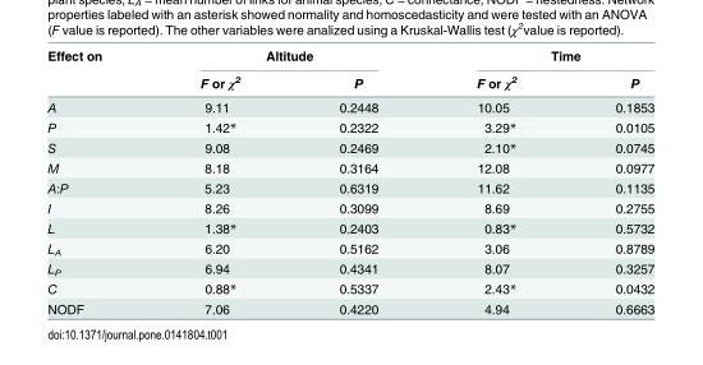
<table><thead><tr><td rowspan="2">Effect on</td><td colspan="2">Altitude</td><td colspan="2">Time</td></tr><tr><td>F or χ<sup>2</sup></td><td>P</td><td>F or χ<sup>2</sup></td><td>P</td></tr></thead><tbody><tr><td>A</td><td>9.11</td><td>0.2448</td><td>10.05</td><td>0.1853</td></tr><tr><td>P</td><td>1.42*</td><td>0.2322</td><td>3.29*</td><td>0.0105</td></tr><tr><td>S</td><td>9.08</td><td>0.2469</td><td>2.10*</td><td>0.0745</td></tr><tr><td>M</td><td>8.18</td><td>0.3164</td><td>12.08</td><td>0.0977</td></tr><tr><td>A:P</td><td>5.23</td><td>0.6319</td><td>11.62</td><td>0.1135</td></tr><tr><td>I</td><td>8.26</td><td>0.3099</td><td>8.69</td><td>0.2755</td></tr><tr><td>L</td><td>1.38*</td><td>0.2403</td><td>0.83*</td><td>0.5732</td></tr><tr><td>L<sub>A</sub></td><td>6.20</td><td>0.5162</td><td>3.06</td><td>0.8789</td></tr><tr><td>L<sub>P</sub></td><td>6.94</td><td>0.4341</td><td>8.07</td><td>0.3257</td></tr><tr><td>C</td><td>0.88*</td><td>0.5337</td><td>2.43*</td><td>0.0432</td></tr><tr><td>NODF</td><td>7.06</td><td>0.4220</td><td>4.94</td><td>0.6663</td></tr></tbody></table>